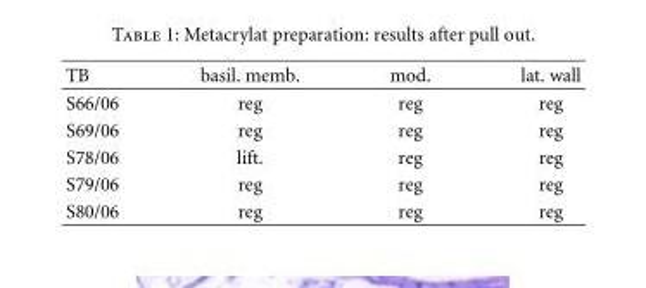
<table><thead><tr><td>TB</td><td>basil. memb.</td><td>mod.</td><td>lat. wall</td></tr></thead><tbody><tr><td>S66/06</td><td>reg</td><td>reg</td><td>reg</td></tr><tr><td>S69/06</td><td>reg</td><td>reg</td><td>reg</td></tr><tr><td>S78/06</td><td>lift.</td><td>reg</td><td>reg</td></tr><tr><td>S79/06</td><td>reg</td><td>reg</td><td>reg</td></tr><tr><td>S80/06</td><td>reg</td><td>reg</td><td>reg</td></tr></tbody></table>